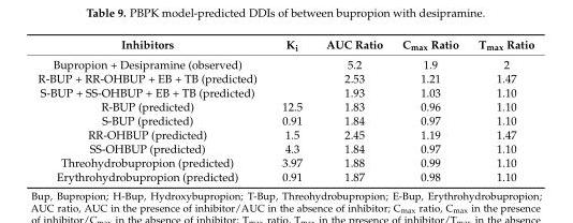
<table><thead><tr><td>Inhibitors</td><td>K<sub>i</sub></td><td>AUC Ratio</td><td>C<sub>max</sub> Ratio</td><td>T<sub>max</sub> Ratio</td></tr></thead><tbody><tr><td>Bupropion + Desipramine (observed)</td><td></td><td>5.2</td><td>1.9</td><td>2</td></tr><tr><td>R-BUP + RR-OHBUP + EB + TB (predicted)</td><td></td><td>2.53</td><td>1.21</td><td>1.47</td></tr><tr><td>S-BUP + SS-OHBUP + EB + TB (predicted)</td><td></td><td>1.93</td><td>1.03</td><td>1.10</td></tr><tr><td>R-BUP (predicted)</td><td>12.5</td><td>1.83</td><td>0.96</td><td>1.10</td></tr><tr><td>S-BUP (predicted)</td><td>0.91</td><td>1.84</td><td>0.97</td><td>1.10</td></tr><tr><td>RR-OHBUP (predicted)</td><td>1.5</td><td>2.45</td><td>1.19</td><td>1.47</td></tr><tr><td>SS-OHBUP (predicted)</td><td>4.3</td><td>1.84</td><td>0.97</td><td>1.10</td></tr><tr><td>Threohydrobupropion (predicted)</td><td>3.97</td><td>1.88</td><td>0.99</td><td>1.10</td></tr><tr><td>Erythrohydrobupropion (predicted)</td><td>0.91</td><td>1.87</td><td>0.98</td><td>1.10</td></tr></tbody></table>